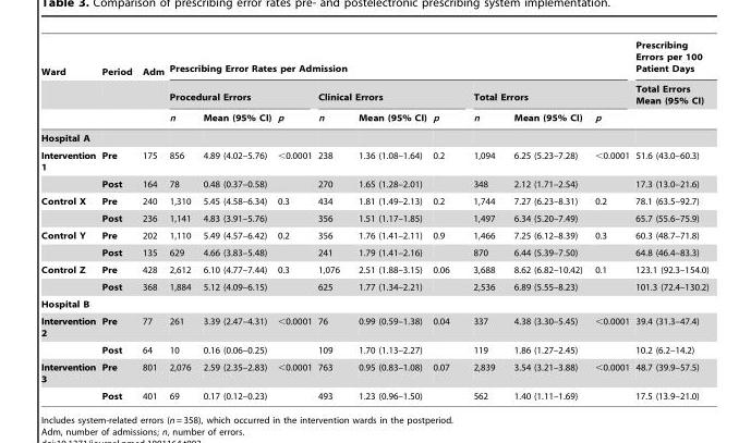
<table><thead><tr><td rowspan="3">Ward</td><td rowspan="3">Period</td><td rowspan="3">Adm</td><td colspan="9">Prescribing Error Rates per Admission</td><td rowspan="3">Prescribing Errors per 100 Patient Days Total Errors Mean (95% CI)</td></tr><tr><td colspan="3">Procedural Errors</td><td colspan="3">Clinical Errors</td><td colspan="3">Total Errors</td></tr><tr><td>n</td><td>Mean (95% CI)</td><td>p</td><td>n</td><td>Mean (95% CI)</td><td>p</td><td>n</td><td>Mean (95% CI)</td><td>p</td></tr></thead><tbody><tr><td colspan="13">Hospital A</td></tr><tr><td rowspan="2">Intervention 1</td><td>Pre</td><td>175</td><td>856</td><td>4.89 (4.02–5.76)</td><td>&lt;0.0001</td><td>238</td><td>1.36 (1.08–1.64)</td><td>0.2</td><td>1,094</td><td>6.25 (5.23–7.28)</td><td>&lt;0.0001</td><td>51.6 (43.0–60.3)</td></tr><tr><td>Post</td><td>164</td><td>78</td><td>0.48 (0.37–0.58)</td><td></td><td>270</td><td>1.65 (1.28–2.01)</td><td></td><td>348</td><td>2.12 (1.71–2.54)</td><td></td><td>17.3 (13.0–21.6)</td></tr><tr><td rowspan="2">Control X</td><td>Pre</td><td>240</td><td>1,310</td><td>5.45 (4.58–6.34)</td><td>0.3</td><td>434</td><td>1.81 (1.49–2.13)</td><td>0.2</td><td>1,744</td><td>7.27 (6.23–8.31)</td><td>0.2</td><td>78.1 (63.5–92.7)</td></tr><tr><td>Post</td><td>236</td><td>1,141</td><td>4.83 (3.91–5.76)</td><td></td><td>356</td><td>1.51 (1.17–1.85)</td><td></td><td>1,497</td><td>6.34 (5.20–7.49)</td><td></td><td>65.7 (55.6–75.9)</td></tr><tr><td rowspan="2">Control Y</td><td>Pre</td><td>202</td><td>1,110</td><td>5.49 (4.57–6.42)</td><td>0.2</td><td>356</td><td>1.76 (1.41–2.11)</td><td>0.9</td><td>1,466</td><td>7.25 (6.12–8.39)</td><td>0.3</td><td>60.3 (48.7–71.8)</td></tr><tr><td>Post</td><td>135</td><td>629</td><td>4.66 (3.83–5.48)</td><td></td><td>241</td><td>1.79 (1.41–2.16)</td><td></td><td>870</td><td>6.44 (5.39–7.50)</td><td></td><td>64.8 (46.4–83.3)</td></tr><tr><td rowspan="2">Control Z</td><td>Pre</td><td>428</td><td>2,612</td><td>6.10 (4.77–7.44)</td><td>0.3</td><td>1,076</td><td>2.51 (1.88–3.15)</td><td>0.06</td><td>3,688</td><td>8.62 (6.82–10.42)</td><td>0.1</td><td>123.1 (92.3–154.0)</td></tr><tr><td>Post</td><td>368</td><td>1,884</td><td>5.12 (4.09–6.15)</td><td></td><td>625</td><td>1.77 (1.34–2.21)</td><td></td><td>2,536</td><td>6.89 (5.55–8.23)</td><td></td><td>101.3 (72.4–130.2)</td></tr><tr><td colspan="13">Hospital B</td></tr><tr><td rowspan="2">Intervention 2</td><td>Pre</td><td>77</td><td>261</td><td>3.39 (2.47–4.31)</td><td>&lt;0.0001</td><td>76</td><td>0.99 (0.59–1.38)</td><td>0.04</td><td>337</td><td>4.38 (3.30–5.45)</td><td>&lt;0.0001</td><td>39.4 (31.3–47.4)</td></tr><tr><td>Post</td><td>64</td><td>10</td><td>0.16 (0.06–0.25)</td><td></td><td>109</td><td>1.70 (1.13–2.27)</td><td></td><td>119</td><td>1.86 (1.27–2.45)</td><td></td><td>10.2 (6.2–14.2)</td></tr><tr><td rowspan="2">Intervention 3</td><td>Pre</td><td>801</td><td>2,076</td><td>2.59 (2.35–2.83)</td><td>&lt;0.0001</td><td>763</td><td>0.95 (0.83–1.08)</td><td>0.07</td><td>2,839</td><td>3.54 (3.21–3.88)</td><td>&lt;0.0001</td><td>48.7 (39.9–57.5)</td></tr><tr><td>Post</td><td>401</td><td>69</td><td>0.17 (0.12–0.23)</td><td></td><td>493</td><td>1.23 (0.96–1.50)</td><td></td><td>562</td><td>1.40 (1.11–1.69)</td><td></td><td>17.5 (13.9–21.0)</td></tr></tbody></table>